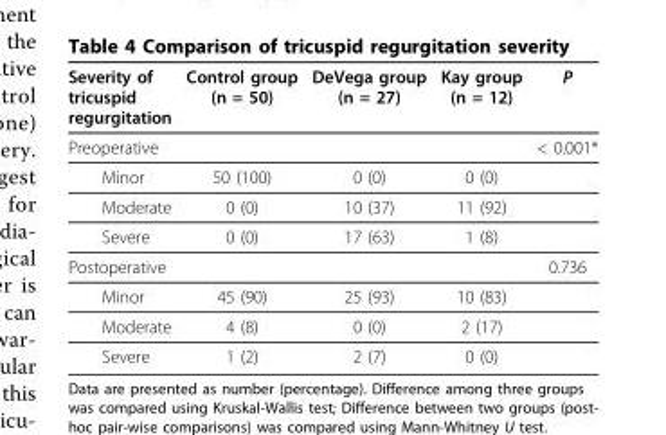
<table><thead><tr><td>Severity of tricuspid regurgitation</td><td>Control group (n = 50)</td><td>DeVega group (n = 27)</td><td>Kay group (n = 12)</td><td>P</td></tr></thead><tbody><tr><td>Preoperative</td><td></td><td></td><td></td><td>&lt; 0.001*</td></tr><tr><td>Minor</td><td>50 (100)</td><td>0 (0)</td><td>0 (0)</td><td></td></tr><tr><td>Moderate</td><td>0 (0)</td><td>10 (37)</td><td>11 (92)</td><td></td></tr><tr><td>Severe</td><td>0 (0)</td><td>17 (63)</td><td>1 (8)</td><td></td></tr><tr><td>Postoperative</td><td></td><td></td><td></td><td>0.736</td></tr><tr><td>Minor</td><td>45 (90)</td><td>25 (93)</td><td>10 (83)</td><td></td></tr><tr><td>Moderate</td><td>4 (8)</td><td>0 (0)</td><td>2 (17)</td><td></td></tr><tr><td>Severe</td><td>1 (2)</td><td>2 (7)</td><td>0 (0)</td><td></td></tr></tbody></table>